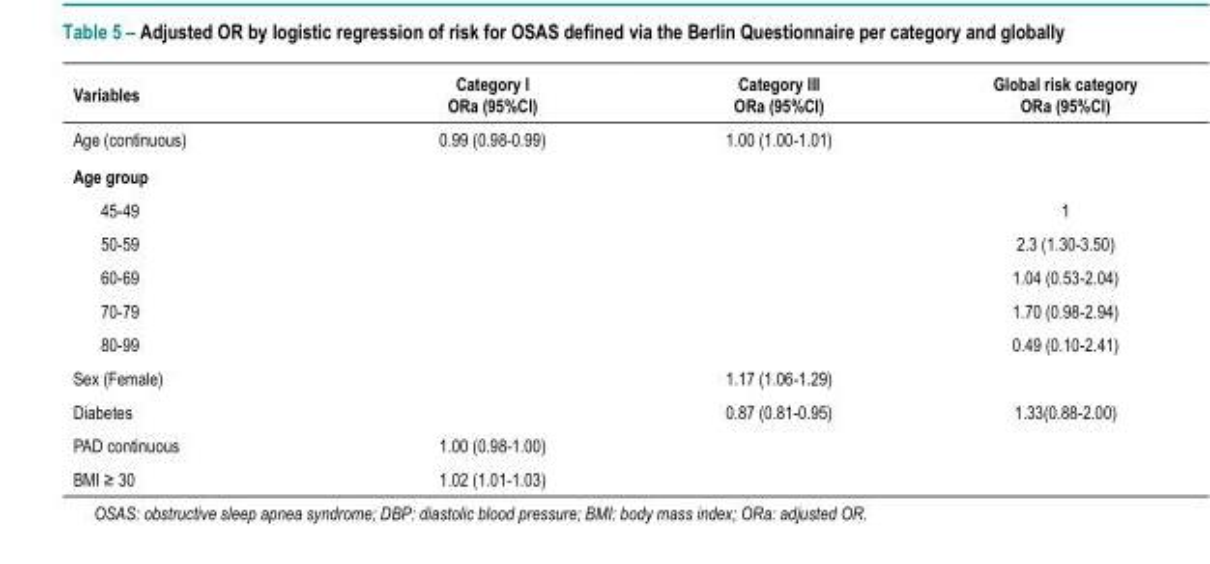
<table><thead><tr><td rowspan="2">Variables</td><td rowspan="2">Category I ORa (95%CI)</td><td rowspan="2">Category III ORa (95%CI)</td><td rowspan="2">Global risk category ORa (95%CI)</td></tr><tr></tr></thead><tbody><tr><td>Age (continuous)</td><td>0.99 (0.98-0.99)</td><td>1.00 (1.00-1.01)</td><td></td></tr><tr><td colspan="4">Age group</td></tr><tr><td>45-49</td><td></td><td></td><td>1</td></tr><tr><td>50-59</td><td></td><td></td><td>2.3 (1.30-3.50)</td></tr><tr><td>60-69</td><td></td><td></td><td>1.04 (0.53-2.04)</td></tr><tr><td>70-79</td><td></td><td></td><td>1.70 (0.98-2.94)</td></tr><tr><td>80-99</td><td></td><td></td><td>0.49 (0.10-2.41)</td></tr><tr><td>Sex (Female)</td><td></td><td>1.17 (1.06-1.29)</td><td></td></tr><tr><td>Diabetes</td><td></td><td>0.87 (0.81-0.95)</td><td>1.33(0.88-2.00)</td></tr><tr><td>PAD continuous</td><td>1.00 (0.98-1.00)</td><td></td><td></td></tr><tr><td>BMI ≥ 30</td><td>1.02 (1.01-1.03)</td><td></td><td></td></tr></tbody></table>